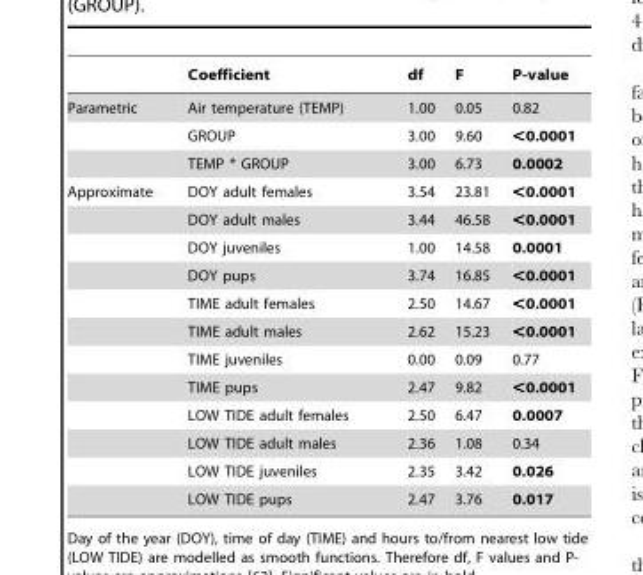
<table><thead><tr><td></td><td>Coefficient</td><td>df</td><td>F</td><td>P-value</td></tr></thead><tbody><tr><td rowspan="3">Parametric</td><td>Air temperature (TEMP)</td><td>1.00</td><td>0.05</td><td>0.82</td></tr><tr><td>GROUP</td><td>3.00</td><td>9.60</td><td>&lt;0.0001</td></tr><tr><td>TEMP * GROUP</td><td>3.00</td><td>6.73</td><td>0.0002</td></tr><tr><td rowspan="12">Approximate</td><td>DOY adult females</td><td>3.54</td><td>23.81</td><td>&lt;0.0001</td></tr><tr><td>DOY adult males</td><td>3.44</td><td>46.58</td><td>&lt;0.0001</td></tr><tr><td>DOY juveniles</td><td>1.00</td><td>14.58</td><td>0.0001</td></tr><tr><td>DOY pups</td><td>3.74</td><td>16.85</td><td>&lt;0.0001</td></tr><tr><td>TIME adult females</td><td>2.50</td><td>14.67</td><td>&lt;0.0001</td></tr><tr><td>TIME adult males</td><td>2.62</td><td>15.23</td><td>&lt;0.0001</td></tr><tr><td>TIME juveniles</td><td>0.00</td><td>0.09</td><td>0.77</td></tr><tr><td>TIME pups</td><td>2.47</td><td>9.82</td><td>&lt;0.0001</td></tr><tr><td>LOW TIDE adult females</td><td>2.50</td><td>6.47</td><td>0.0007</td></tr><tr><td>LOW TIDE adult males</td><td>2.36</td><td>1.08</td><td>0.34</td></tr><tr><td>LOW TIDE juveniles</td><td>2.35</td><td>3.42</td><td>0.026</td></tr><tr><td>LOW TIDE pups</td><td>2.47</td><td>3.76</td><td>0.017</td></tr></tbody></table>